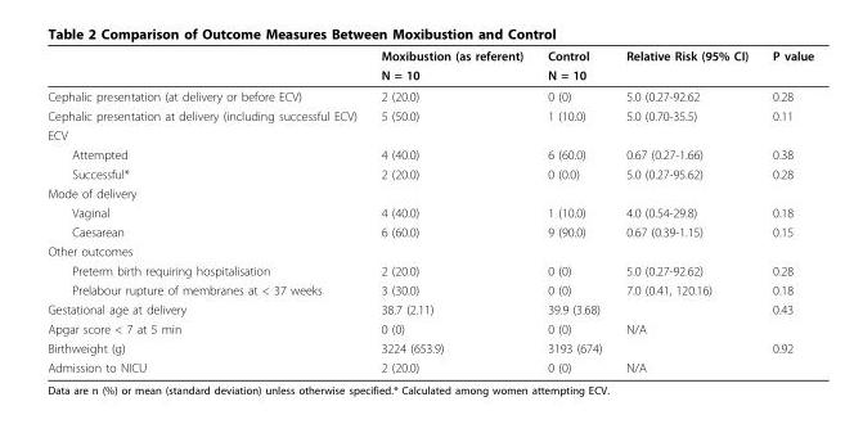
<table><thead><tr><td rowspan="2"></td><td rowspan="2">Moxibustion (as referent) N = 10</td><td rowspan="2">Control N = 10</td><td rowspan="2">Relative Risk (95% CI)</td><td rowspan="2">P value</td></tr><tr></tr></thead><tbody><tr><td>Cephalic presentation (at delivery or before ECV)</td><td>2 (20.0)</td><td>0 (0)</td><td>5.0 (0.27-92.62</td><td>0.28</td></tr><tr><td>Cephalic presentation at delivery (including successful ECV)</td><td>5 (50.0)</td><td>1 (10.0)</td><td>5.0 (0.70-35.5)</td><td>0.11</td></tr><tr><td colspan="5">ECV</td></tr><tr><td>Attempted</td><td>4 (40.0)</td><td>6 (60.0)</td><td>0.67 (0.27-1.66)</td><td>0.38</td></tr><tr><td>Successful*</td><td>2 (20.0)</td><td>0 (0.0)</td><td>5.0 (0.27-95.62)</td><td>0.28</td></tr><tr><td colspan="5">Mode of delivery</td></tr><tr><td>Vaginal</td><td>4 (40.0)</td><td>1 (10.0)</td><td>4.0 (0.54-29.8)</td><td>0.18</td></tr><tr><td>Caesarean</td><td>6 (60.0)</td><td>9 (90.0)</td><td>0.67 (0.39-1.15)</td><td>0.15</td></tr><tr><td colspan="5">Other outcomes</td></tr><tr><td>Preterm birth requiring hospitalisation</td><td>2 (20.0)</td><td>0 (0)</td><td>5.0 (0.27-92.62)</td><td>0.28</td></tr><tr><td>Prelabour rupture of membranes at &lt; 37 weeks</td><td>3 (30.0)</td><td>0 (0)</td><td>7.0 (0.41, 120.16)</td><td>0.18</td></tr><tr><td>Gestational age at delivery</td><td>38.7 (2.11)</td><td>39.9 (3.68)</td><td></td><td>0.43</td></tr><tr><td>Apgar score &lt; 7 at 5 min</td><td>0 (0)</td><td>0 (0)</td><td>N/A</td><td></td></tr><tr><td>Birthweight (g)</td><td>3224 (653.9)</td><td>3193 (674)</td><td></td><td>0.92</td></tr><tr><td>Admission to NICU</td><td>2 (20.0)</td><td>0 (0)</td><td>N/A</td><td></td></tr></tbody></table>